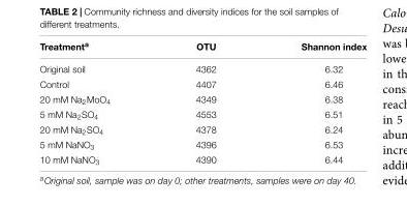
<table><thead><tr><td>Treatment<sup>a</sup></td><td>OTU</td><td>Shannon index</td></tr></thead><tbody><tr><td>Original soil</td><td>4362</td><td>6.32</td></tr><tr><td>Control</td><td>4407</td><td>6.46</td></tr><tr><td>20 mM Na<sub>2</sub>MoO<sub>4</sub></td><td>4349</td><td>6.38</td></tr><tr><td>5 mM Na<sub>2</sub>SO<sub>4</sub></td><td>4553</td><td>6.51</td></tr><tr><td>20 mM Na<sub>2</sub>SO<sub>4</sub></td><td>4378</td><td>6.24</td></tr><tr><td>5 mM NaNO<sub>3</sub></td><td>4396</td><td>6.53</td></tr><tr><td>10 mM NaNO<sub>3</sub></td><td>4390</td><td>6.44</td></tr></tbody></table>